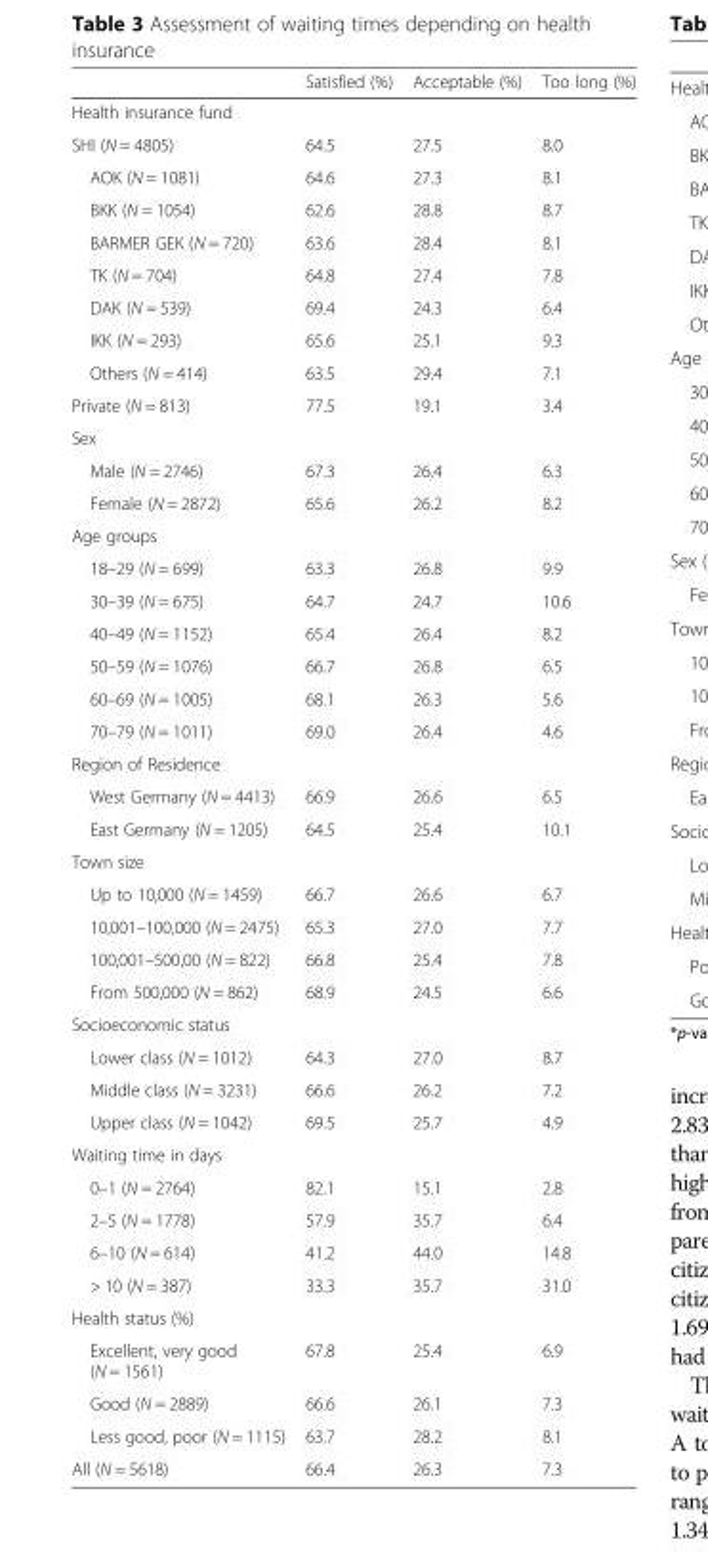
<table><thead><tr><td></td><td>Satisfied (%)</td><td>Acceptable (%)</td><td>Too long (%)</td></tr></thead><tbody><tr><td colspan="4">Health insurance fund</td></tr><tr><td>SHI (N = 4805)</td><td>64.5</td><td>27.5</td><td>8.0</td></tr><tr><td>AOK (N = 1081)</td><td>64.6</td><td>27.3</td><td>8.1</td></tr><tr><td>BKK (N = 1054)</td><td>62.6</td><td>28.8</td><td>8.7</td></tr><tr><td>BARMER GEK (N = 720)</td><td>63.6</td><td>28.4</td><td>8.1</td></tr><tr><td>TK (N = 704)</td><td>64.8</td><td>27.4</td><td>7.8</td></tr><tr><td>DAK (N = 539)</td><td>69.4</td><td>24.3</td><td>6.4</td></tr><tr><td>IKK (N = 293)</td><td>65.6</td><td>25.1</td><td>9.3</td></tr><tr><td>Others (N = 414)</td><td>63.5</td><td>29.4</td><td>7.1</td></tr><tr><td>Private (N = 813)</td><td>77.5</td><td>19.1</td><td>3.4</td></tr><tr><td colspan="4">Sex</td></tr><tr><td>Male (N = 2746)</td><td>67.3</td><td>26.4</td><td>6.3</td></tr><tr><td>Female (N = 2872)</td><td>65.6</td><td>26.2</td><td>8.2</td></tr><tr><td colspan="4">Age groups</td></tr><tr><td>18–29 (N = 699)</td><td>63.3</td><td>26.8</td><td>9.9</td></tr><tr><td>30–39 (N = 675)</td><td>64.7</td><td>24.7</td><td>10.6</td></tr><tr><td>40–49 (N = 1152)</td><td>65.4</td><td>26.4</td><td>8.2</td></tr><tr><td>50–59 (N = 1076)</td><td>66.7</td><td>26.8</td><td>6.5</td></tr><tr><td>60–69 (N = 1005)</td><td>68.1</td><td>26.3</td><td>5.6</td></tr><tr><td>70–79 (N = 1011)</td><td>69.0</td><td>26.4</td><td>4.6</td></tr><tr><td colspan="4">Region of Residence</td></tr><tr><td>West Germany (N = 4413)</td><td>66.9</td><td>26.6</td><td>6.5</td></tr><tr><td>East Germany (N = 1205)</td><td>64.5</td><td>25.4</td><td>10.1</td></tr><tr><td colspan="4">Town size</td></tr><tr><td>Up to 10,000 (N = 1459)</td><td>66.7</td><td>26.6</td><td>6.7</td></tr><tr><td>10,001–100,000 (N = 2475)</td><td>65.3</td><td>27.0</td><td>7.7</td></tr><tr><td>100,001–500,00 (N = 822)</td><td>66.8</td><td>25.4</td><td>7.8</td></tr><tr><td>From 500,000 (N = 862)</td><td>68.9</td><td>24.5</td><td>6.6</td></tr><tr><td colspan="4">Socioeconomic status</td></tr><tr><td>Lower class (N = 1012)</td><td>64.3</td><td>27.0</td><td>8.7</td></tr><tr><td>Middle class (N = 3231)</td><td>66.6</td><td>26.2</td><td>7.2</td></tr><tr><td>Upper class (N = 1042)</td><td>69.5</td><td>25.7</td><td>4.9</td></tr><tr><td colspan="4">Waiting time in days</td></tr><tr><td>0–1 (N = 2764)</td><td>82.1</td><td>15.1</td><td>2.8</td></tr><tr><td>2–5 (N = 1778)</td><td>57.9</td><td>35.7</td><td>6.4</td></tr><tr><td>6–10 (N = 614)</td><td>41.2</td><td>44.0</td><td>14.8</td></tr><tr><td>&gt; 10 (N = 387)</td><td>33.3</td><td>35.7</td><td>31.0</td></tr><tr><td colspan="4">Health status (%)</td></tr><tr><td>Excellent, very good (N = 1561)</td><td>67.8</td><td>25.4</td><td>6.9</td></tr><tr><td>Good (N = 2889)</td><td>66.6</td><td>26.1</td><td>7.3</td></tr><tr><td>Less good, poor (N = 1115)</td><td>63.7</td><td>28.2</td><td>8.1</td></tr><tr><td>All (N = 5618)</td><td>66.4</td><td>26.3</td><td>7.3</td></tr></tbody></table>